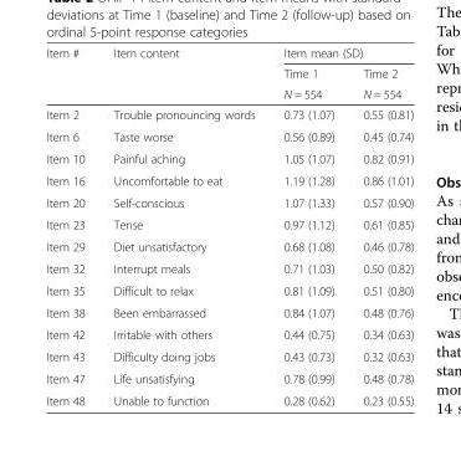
<table><thead><tr><td rowspan="3">Item #</td><td rowspan="3">Item content</td><td colspan="2">Item mean (SD)</td></tr><tr><td rowspan="2">Time 1 N = 554</td><td rowspan="2">Time 2 N = 554</td></tr><tr></tr></thead><tbody><tr><td>Item 2</td><td>Trouble pronouncing words</td><td>0.73 (1.07)</td><td>0.55 (0.81)</td></tr><tr><td>Item 6</td><td>Taste worse</td><td>0.56 (0.89)</td><td>0.45 (0.74)</td></tr><tr><td>Item 10</td><td>Painful aching</td><td>1.05 (1.07)</td><td>0.82 (0.91)</td></tr><tr><td>Item 16</td><td>Uncomfortable to eat</td><td>1.19 (1.28)</td><td>0.86 (1.01)</td></tr><tr><td>Item 20</td><td>Self-conscious</td><td>1.07 (1.33)</td><td>0.57 (0.90)</td></tr><tr><td>Item 23</td><td>Tense</td><td>0.97 (1.12)</td><td>0.61 (0.85)</td></tr><tr><td>Item 29</td><td>Diet unsatisfactory</td><td>0.68 (1.08)</td><td>0.46 (0.78)</td></tr><tr><td>Item 32</td><td>Interrupt meals</td><td>0.71 (1.03)</td><td>0.50 (0.82)</td></tr><tr><td>Item 35</td><td>Difficult to relax</td><td>0.81 (1.09)</td><td>0.51 (0.80)</td></tr><tr><td>Item 38</td><td>Been embarrassed</td><td>0.84 (1.07)</td><td>0.48 (0.76)</td></tr><tr><td>Item 42</td><td>Irritable with others</td><td>0.44 (0.75)</td><td>0.34 (0.63)</td></tr><tr><td>Item 43</td><td>Difficulty doing jobs</td><td>0.43 (0.73)</td><td>0.32 (0.63)</td></tr><tr><td>Item 47</td><td>Life unsatisfying</td><td>0.78 (0.99)</td><td>0.48 (0.78)</td></tr><tr><td>Item 48</td><td>Unable to function</td><td>0.28 (0.62)</td><td>0.23 (0.55)</td></tr></tbody></table>